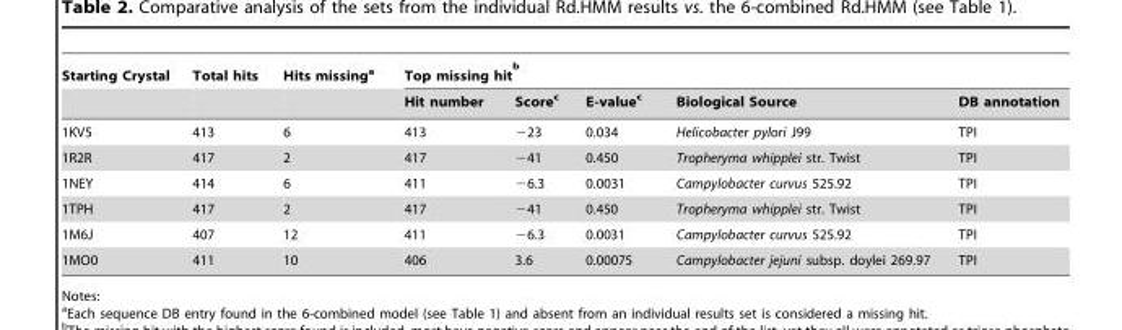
<table><thead><tr><td rowspan="2">Starting Crystal</td><td rowspan="2">Total hits</td><td rowspan="2">Hits missing<sup>a</sup></td><td colspan="5">Top missing hit <sup>b</sup></td></tr><tr><td>Hit number</td><td>Score<sup>c</sup></td><td>E-value<sup>c</sup></td><td>Biological Source</td><td>DB annotation</td></tr></thead><tbody><tr><td>1KV5</td><td>413</td><td>6</td><td>413</td><td>−23</td><td>0.034</td><td>Helicobacter pylori J99</td><td>TPI</td></tr><tr><td>1R2R</td><td>417</td><td>2</td><td>417</td><td>−41</td><td>0.450</td><td>Tropheryma whipplei str. Twist</td><td>TPI</td></tr><tr><td>1NEY</td><td>414</td><td>6</td><td>411</td><td>−6.3</td><td>0.0031</td><td>Campylobacter curvus 525.92</td><td>TPI</td></tr><tr><td>1TPH</td><td>417</td><td>2</td><td>417</td><td>−41</td><td>0.450</td><td>Tropheryma whipplei str. Twist</td><td>TPI</td></tr><tr><td>1M6J</td><td>407</td><td>12</td><td>411</td><td>−6.3</td><td>0.0031</td><td>Campylobacter curvus 525.92</td><td>TPI</td></tr><tr><td>1MO0</td><td>411</td><td>10</td><td>406</td><td>3.6</td><td>0.00075</td><td>Campylobacter jejuni subsp. doylei 269.97</td><td>TPI</td></tr></tbody></table>